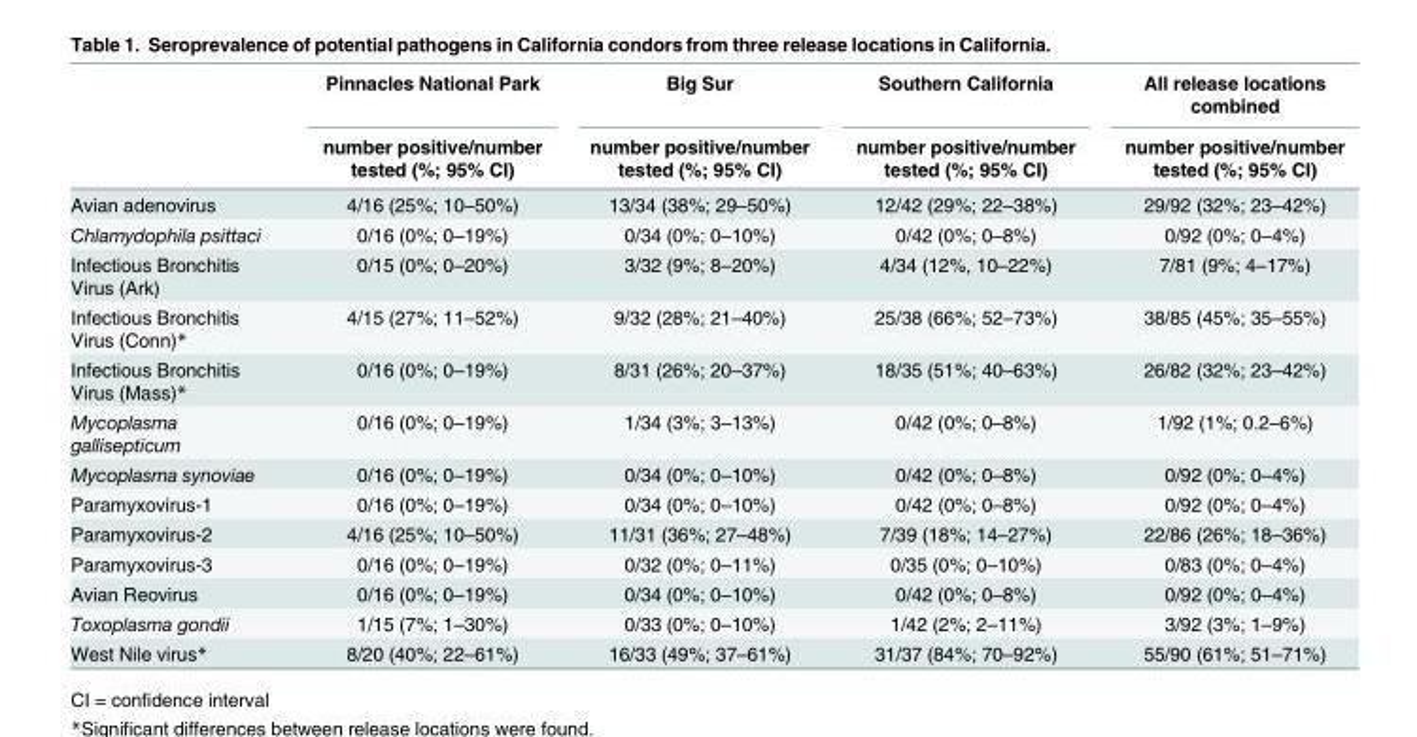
<table><thead><tr><td rowspan="2"></td><td rowspan="2">Pinnacles National Park number positive/number tested (%; 95% CI)</td><td rowspan="2">Big Sur number positive/number tested (%; 95% CI)</td><td rowspan="2">Southern California number positive/number tested (%; 95% CI)</td><td rowspan="2">All release locations combined number positive/number tested (%; 95% CI)</td></tr><tr></tr></thead><tbody><tr><td>Avian adenovirus</td><td>4/16 (25%; 10–50%)</td><td>13/34 (38%; 29–50%)</td><td>12/42 (29%; 22–38%)</td><td>29/92 (32%; 23–42%)</td></tr><tr><td>Chlamydophila psittaci</td><td>0/16 (0%; 0–19%)</td><td>0/34 (0%; 0–10%)</td><td>0/42 (0%; 0–8%)</td><td>0/92 (0%; 0–4%)</td></tr><tr><td>Infectious Bronchitis Virus (Ark)</td><td>0/15 (0%; 0–20%)</td><td>3/32 (9%; 8–20%)</td><td>4/34 (12%, 10–22%)</td><td>7/81 (9%; 4–17%)</td></tr><tr><td>Infectious Bronchitis Virus (Conn)*</td><td>4/15 (27%; 11–52%)</td><td>9/32 (28%; 21–40%)</td><td>25/38 (66%; 52–73%)</td><td>38/85 (45%; 35–55%)</td></tr><tr><td>Infectious Bronchitis Virus (Mass)*</td><td>0/16 (0%; 0–19%)</td><td>8/31 (26%; 20–37%)</td><td>18/35 (51%; 40–63%)</td><td>26/82 (32%; 23–42%)</td></tr><tr><td>Mycoplasma gallisepticum</td><td>0/16 (0%; 0–19%)</td><td>1/34 (3%; 3–13%)</td><td>0/42 (0%; 0–8%)</td><td>1/92 (1%; 0.2–6%)</td></tr><tr><td>Mycoplasma synoviae</td><td>0/16 (0%; 0–19%)</td><td>0/34 (0%; 0–10%)</td><td>0/42 (0%; 0–8%)</td><td>0/92 (0%; 0–4%)</td></tr><tr><td>Paramyxovirus-1</td><td>0/16 (0%; 0–19%)</td><td>0/34 (0%; 0–10%)</td><td>0/42 (0%; 0–8%)</td><td>0/92 (0%; 0–4%)</td></tr><tr><td>Paramyxovirus-2</td><td>4/16 (25%; 10–50%)</td><td>11/31 (36%; 27–48%)</td><td>7/39 (18%; 14–27%)</td><td>22/86 (26%; 18–36%)</td></tr><tr><td>Paramyxovirus-3</td><td>0/16 (0%; 0–19%)</td><td>0/32 (0%; 0–11%)</td><td>0/35 (0%; 0–10%)</td><td>0/83 (0%; 0–4%)</td></tr><tr><td>Avian Reovirus</td><td>0/16 (0%; 0–19%)</td><td>0/34 (0%; 0–10%)</td><td>0/42 (0%; 0–8%)</td><td>0/92 (0%; 0–4%)</td></tr><tr><td>Toxoplasma gondii</td><td>1/15 (7%; 1–30%)</td><td>0/33 (0%; 0–10%)</td><td>1/42 (2%; 2–11%)</td><td>3/92 (3%; 1–9%)</td></tr><tr><td>West Nile virus*</td><td>8/20 (40%; 22–61%)</td><td>16/33 (49%; 37–61%)</td><td>31/37 (84%; 70–92%)</td><td>55/90 (61%; 51–71%)</td></tr></tbody></table>